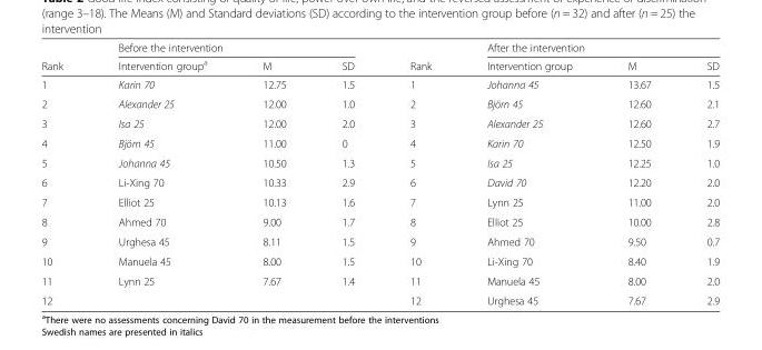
<table><thead><tr><td rowspan="2">Rank</td><td colspan="3">Before the intervention</td><td rowspan="2">Rank</td><td colspan="3">After the intervention</td></tr><tr><td>Intervention group<sup>a</sup></td><td>M</td><td>SD</td><td>Intervention group</td><td>M</td><td>SD</td></tr></thead><tbody><tr><td>1</td><td>Karin 70</td><td>12.75</td><td>1.5</td><td>1</td><td>Johanna 45</td><td>13.67</td><td>1.5</td></tr><tr><td>2</td><td>Alexander 25</td><td>12.00</td><td>1.0</td><td>2</td><td>Björn 45</td><td>12.60</td><td>2.1</td></tr><tr><td>3</td><td>Isa 25</td><td>12.00</td><td>2.0</td><td>3</td><td>Alexander 25</td><td>12.60</td><td>2.7</td></tr><tr><td>4</td><td>Björn 45</td><td>11.00</td><td>0</td><td>4</td><td>Karin 70</td><td>12.50</td><td>1.9</td></tr><tr><td>5</td><td>Johanna 45</td><td>10.50</td><td>1.3</td><td>5</td><td>Isa 25</td><td>12.25</td><td>1.0</td></tr><tr><td>6</td><td>Li-Xing 70</td><td>10.33</td><td>2.9</td><td>6</td><td>David 70</td><td>12.20</td><td>2.0</td></tr><tr><td>7</td><td>Elliot 25</td><td>10.13</td><td>1.6</td><td>7</td><td>Lynn 25</td><td>11.00</td><td>2.0</td></tr><tr><td>8</td><td>Ahmed 70</td><td>9.00</td><td>1.7</td><td>8</td><td>Elliot 25</td><td>10.00</td><td>2.8</td></tr><tr><td>9</td><td>Urghesa 45</td><td>8.11</td><td>1.5</td><td>9</td><td>Ahmed 70</td><td>9.50</td><td>0.7</td></tr><tr><td>10</td><td>Manuela 45</td><td>8.00</td><td>1.5</td><td>10</td><td>Li-Xing 70</td><td>8.40</td><td>1.9</td></tr><tr><td>11</td><td>Lynn 25</td><td>7.67</td><td>1.4</td><td>11</td><td>Manuela 45</td><td>8.00</td><td>2.0</td></tr><tr><td>12</td><td></td><td></td><td></td><td>12</td><td>Urghesa 45</td><td>7.67</td><td>2.9</td></tr></tbody></table>